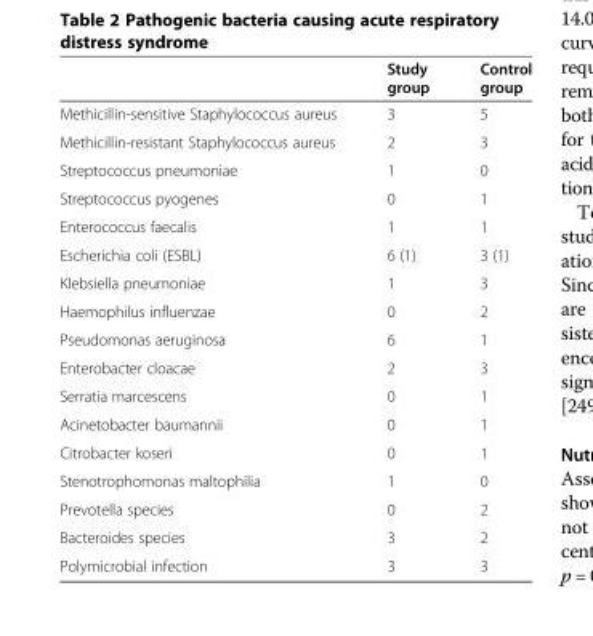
<table><thead><tr><td></td><td>Study group</td><td>Control group</td></tr></thead><tbody><tr><td>Methicillin-sensitive Staphylococcus aureus</td><td>3</td><td>5</td></tr><tr><td>Methicillin-resistant Staphylococcus aureus</td><td>2</td><td>3</td></tr><tr><td>Streptococcus pneumoniae</td><td>1</td><td>0</td></tr><tr><td>Streptococcus pyogenes</td><td>0</td><td>1</td></tr><tr><td>Enterococcus faecalis</td><td>1</td><td>1</td></tr><tr><td>Escherichia coli (ESBL)</td><td>6 (1)</td><td>3 (1)</td></tr><tr><td>Klebsiella pneumoniae</td><td>1</td><td>3</td></tr><tr><td>Haemophilus influenzae</td><td>0</td><td>2</td></tr><tr><td>Pseudomonas aeruginosa</td><td>6</td><td>1</td></tr><tr><td>Enterobacter cloacae</td><td>2</td><td>3</td></tr><tr><td>Serratia marcescens</td><td>0</td><td>1</td></tr><tr><td>Acinetobacter baumannii</td><td>0</td><td>1</td></tr><tr><td>Citrobacter koseri</td><td>0</td><td>1</td></tr><tr><td>Stenotrophomonas maltophilia</td><td>1</td><td>0</td></tr><tr><td>Prevotella species</td><td>0</td><td>2</td></tr><tr><td>Bacteroides species</td><td>3</td><td>2</td></tr><tr><td>Polymicrobial infection</td><td>3</td><td>3</td></tr></tbody></table>